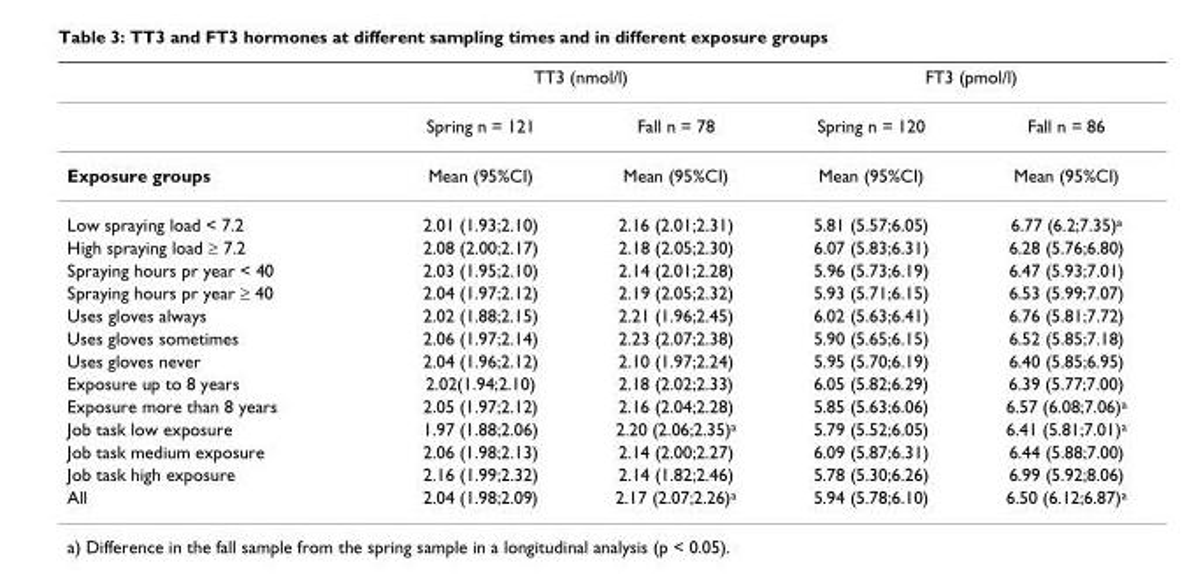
<table><thead><tr><td rowspan="2"></td><td colspan="2">TT3 (nmol/l)</td><td colspan="2">FT3 (pmol/l)</td></tr><tr><td>Spring n = 121</td><td>Fall n = 78</td><td>Spring n = 120</td><td>Fall n = 86</td></tr></thead><tbody><tr><td>Exposure groups</td><td>Mean (95%CI)</td><td>Mean (95%CI)</td><td>Mean (95%CI)</td><td>Mean (95%CI)</td></tr><tr><td>Low spraying load &lt; 7.2</td><td>2.01 (1.93;2.10)</td><td>2.16 (2.01;2.31)</td><td>5.81 (5.57;6.05)</td><td>6.77 (6.2;7.35)<sup>a</sup></td></tr><tr><td>High spraying load ≥ 7.2</td><td>2.08 (2.00;2.17)</td><td>2.18 (2.05;2.30)</td><td>6.07 (5.83;6.31)</td><td>6.28 (5.76;6.80)</td></tr><tr><td>Spraying hours pr year &lt; 40</td><td>2.03 (1.95;2.10)</td><td>2.14 (2.01;2.28)</td><td>5.96 (5.73;6.19)</td><td>6.47 (5.93;7.01)</td></tr><tr><td>Spraying hours pr year ≥ 40</td><td>2.04 (1.97;2.12)</td><td>2.19 (2.05;2.32)</td><td>5.93 (5.71;6.15)</td><td>6.53 (5.99;7.07)</td></tr><tr><td>Uses gloves always</td><td>2.02 (1.88;2.15)</td><td>2.21 (1.96;2.45)</td><td>6.02 (5.63;6.41)</td><td>6.76 (5.81;7.72)</td></tr><tr><td>Uses gloves sometimes</td><td>2.06 (1.97;2.14)</td><td>2.23 (2.07;2.38)</td><td>5.90 (5.65;6.15)</td><td>6.52 (5.85;7.18)</td></tr><tr><td>Uses gloves never</td><td>2.04 (1.96;2.12)</td><td>2.10 (1.97;2.24)</td><td>5.95 (5.70;6.19)</td><td>6.40 (5.85;6.95)</td></tr><tr><td>Exposure up to 8 years</td><td>2.02(1.94;2.10)</td><td>2.18 (2.02;2.33)</td><td>6.05 (5.82;6.29)</td><td>6.39 (5.77;7.00)</td></tr><tr><td>Exposure more than 8 years</td><td>2.05 (1.97;2.12)</td><td>2.16 (2.04;2.28)</td><td>5.85 (5.63;6.06)</td><td>6.57 (6.08;7.06)<sup>a</sup></td></tr><tr><td>Job task low exposure</td><td>1.97 (1.88;2.06)</td><td>2.20 (2.06;2.35)<sup>a</sup></td><td>5.79 (5.52;6.05)</td><td>6.41 (5.81;7.01)<sup>a</sup></td></tr><tr><td>Job task medium exposure</td><td>2.06 (1.98;2.13)</td><td>2.14 (2.00;2.27)</td><td>6.09 (5.87;6.31)</td><td>6.44 (5.88;7.00)</td></tr><tr><td>Job task high exposure</td><td>2.16 (1.99;2.32)</td><td>2.14 (1.82;2.46)</td><td>5.78 (5.30;6.26)</td><td>6.99 (5.92;8.06)</td></tr><tr><td>All</td><td>2.04 (1.98;2.09)</td><td>2.17 (2.07;2.26)<sup>a</sup></td><td>5.94 (5.78;6.10)</td><td>6.50 (6.12;6.87)<sup>a</sup></td></tr></tbody></table>